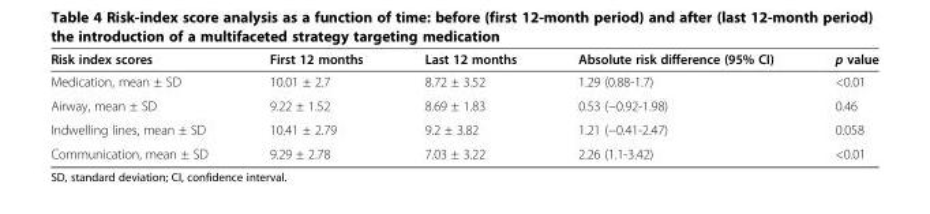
<table><thead><tr><td>Risk index scores</td><td>First 12 months</td><td>Last 12 months</td><td>Absolute risk difference (95% CI)</td><td>p value</td></tr></thead><tbody><tr><td>Medication, mean ± SD</td><td>10.01 ± 2.7</td><td>8.72 ± 3.52</td><td>1.29 (0.88-1.7)</td><td>&lt;0.01</td></tr><tr><td>Airway, mean ± SD</td><td>9.22 ± 1.52</td><td>8.69 ± 1.83</td><td>0.53 (−0.92-1.98)</td><td>0.46</td></tr><tr><td>Indwelling lines, mean ± SD</td><td>10.41 ± 2.79</td><td>9.2 ± 3.82</td><td>1.21 (−0.41-2.47)</td><td>0.058</td></tr><tr><td>Communication, mean ± SD</td><td>9.29 ± 2.78</td><td>7.03 ± 3.22</td><td>2.26 (1.1-3.42)</td><td>&lt;0.01</td></tr></tbody></table>